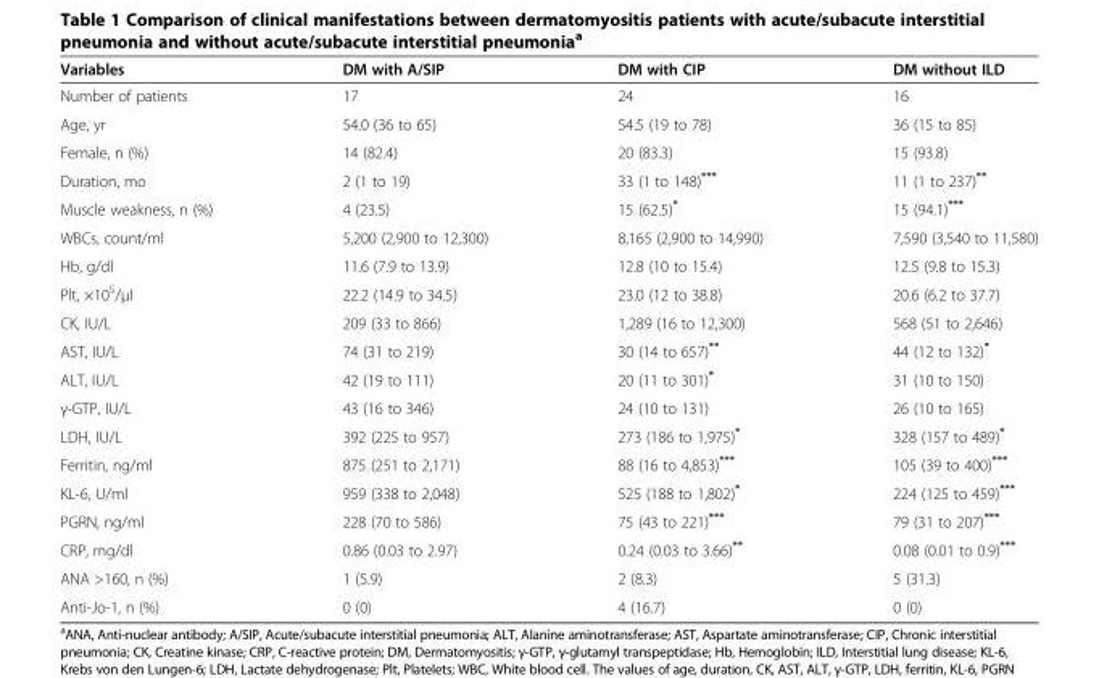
<table><thead><tr><td>Variables</td><td>DM with A/SIP</td><td>DM with CIP</td><td>DM without ILD</td></tr></thead><tbody><tr><td>Number of patients</td><td>17</td><td>24</td><td>16</td></tr><tr><td>Age, yr</td><td>54.0 (36 to 65)</td><td>54.5 (19 to 78)</td><td>36 (15 to 85)</td></tr><tr><td>Female, n (%)</td><td>14 (82.4)</td><td>20 (83.3)</td><td>15 (93.8)</td></tr><tr><td>Duration, mo</td><td>2 (1 to 19)</td><td>33 (1 to 148)***</td><td>11 (1 to 237)**</td></tr><tr><td>Muscle weakness, n (%)</td><td>4 (23.5)</td><td>15 (62.5)*</td><td>15 (94.1)***</td></tr><tr><td>WBCs, count/ml</td><td>5,200 (2,900 to 12,300)</td><td>8,165 (2,900 to 14,990)</td><td>7,590 (3,540 to 11,580)</td></tr><tr><td>Hb, g/dl</td><td>11.6 (7.9 to 13.9)</td><td>12.8 (10 to 15.4)</td><td>12.5 (9.8 to 15.3)</td></tr><tr><td>Plt, ×10<sup>5</sup>/μl</td><td>22.2 (14.9 to 34.5)</td><td>23.0 (12 to 38.8)</td><td>20.6 (6.2 to 37.7)</td></tr><tr><td>CK, IU/L</td><td>209 (33 to 866)</td><td>1,289 (16 to 12,300)</td><td>568 (51 to 2,646)</td></tr><tr><td>AST, IU/L</td><td>74 (31 to 219)</td><td>30 (14 to 657)**</td><td>44 (12 to 132)*</td></tr><tr><td>ALT, IU/L</td><td>42 (19 to 111)</td><td>20 (11 to 301)*</td><td>31 (10 to 150)</td></tr><tr><td>γ-GTP, IU/L</td><td>43 (16 to 346)</td><td>24 (10 to 131)</td><td>26 (10 to 165)</td></tr><tr><td>LDH, IU/L</td><td>392 (225 to 957)</td><td>273 (186 to 1,975)*</td><td>328 (157 to 489)*</td></tr><tr><td>Ferritin, ng/ml</td><td>875 (251 to 2,171)</td><td>88 (16 to 4,853)***</td><td>105 (39 to 400)***</td></tr><tr><td>KL-6, U/ml</td><td>959 (338 to 2,048)</td><td>525 (188 to 1,802)*</td><td>224 (125 to 459)***</td></tr><tr><td>PGRN, ng/ml</td><td>228 (70 to 586)</td><td>75 (43 to 221)***</td><td>79 (31 to 207)***</td></tr><tr><td>CRP, mg/dl</td><td>0.86 (0.03 to 2.97)</td><td>0.24 (0.03 to 3.66)**</td><td>0.08 (0.01 to 0.9)***</td></tr><tr><td>ANA &gt;160, n (%)</td><td>1 (5.9)</td><td>2 (8.3)</td><td>5 (31.3)</td></tr><tr><td>Anti-Jo-1, n (%)</td><td>0 (0)</td><td>4 (16.7)</td><td>0 (0)</td></tr></tbody></table>